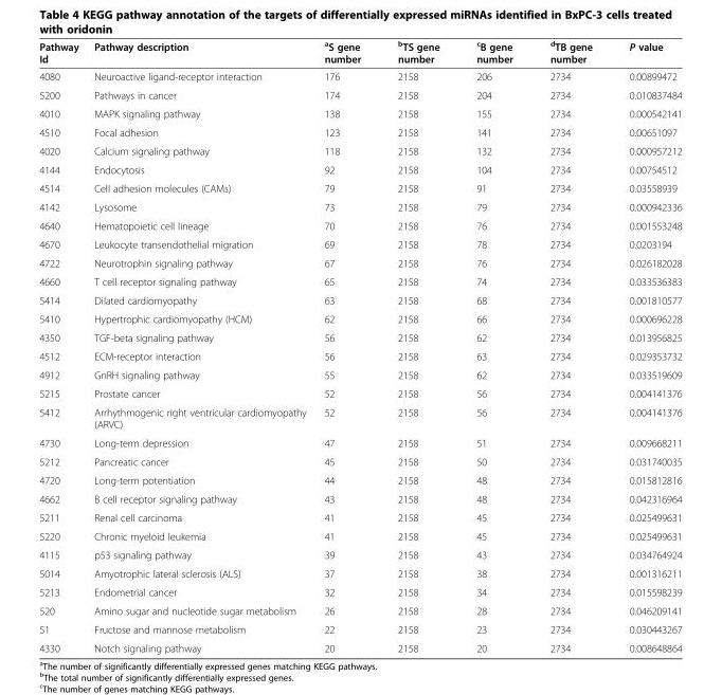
<table><thead><tr><td>Pathway Id</td><td>Pathway description</td><td><sup>a</sup>S gene number</td><td><sup>b</sup>TS gene number</td><td><sup>c</sup>B gene number</td><td><sup>d</sup>TB gene number</td><td>P value</td></tr></thead><tbody><tr><td>4080</td><td>Neuroactive ligand-receptor interaction</td><td>176</td><td>2158</td><td>206</td><td>2734</td><td>0.00899472</td></tr><tr><td>5200</td><td>Pathways in cancer</td><td>174</td><td>2158</td><td>204</td><td>2734</td><td>0.010837484</td></tr><tr><td>4010</td><td>MAPK signaling pathway</td><td>138</td><td>2158</td><td>155</td><td>2734</td><td>0.000542141</td></tr><tr><td>4510</td><td>Focal adhesion</td><td>123</td><td>2158</td><td>141</td><td>2734</td><td>0.00651097</td></tr><tr><td>4020</td><td>Calcium signaling pathway</td><td>118</td><td>2158</td><td>132</td><td>2734</td><td>0.000957212</td></tr><tr><td>4144</td><td>Endocytosis</td><td>92</td><td>2158</td><td>104</td><td>2734</td><td>0.00754512</td></tr><tr><td>4514</td><td>Cell adhesion molecules (CAMs)</td><td>79</td><td>2158</td><td>91</td><td>2734</td><td>0.03558939</td></tr><tr><td>4142</td><td>Lysosome</td><td>73</td><td>2158</td><td>79</td><td>2734</td><td>0.000942336</td></tr><tr><td>4640</td><td>Hematopoietic cell lineage</td><td>70</td><td>2158</td><td>76</td><td>2734</td><td>0.001553248</td></tr><tr><td>4670</td><td>Leukocyte transendothelial migration</td><td>69</td><td>2158</td><td>78</td><td>2734</td><td>0.0203194</td></tr><tr><td>4722</td><td>Neurotrophin signaling pathway</td><td>67</td><td>2158</td><td>76</td><td>2734</td><td>0.026182028</td></tr><tr><td>4660</td><td>T cell receptor signaling pathway</td><td>65</td><td>2158</td><td>74</td><td>2734</td><td>0.033536383</td></tr><tr><td>5414</td><td>Dilated cardiomyopathy</td><td>63</td><td>2158</td><td>68</td><td>2734</td><td>0.001810577</td></tr><tr><td>5410</td><td>Hypertrophic cardiomyopathy (HCM)</td><td>62</td><td>2158</td><td>66</td><td>2734</td><td>0.000696228</td></tr><tr><td>4350</td><td>TGF-beta signaling pathway</td><td>56</td><td>2158</td><td>62</td><td>2734</td><td>0.013956825</td></tr><tr><td>4512</td><td>ECM-receptor interaction</td><td>56</td><td>2158</td><td>63</td><td>2734</td><td>0.029353732</td></tr><tr><td>4912</td><td>GnRH signaling pathway</td><td>55</td><td>2158</td><td>62</td><td>2734</td><td>0.033519609</td></tr><tr><td>5215</td><td>Prostate cancer</td><td>52</td><td>2158</td><td>56</td><td>2734</td><td>0.004141376</td></tr><tr><td>5412</td><td>Arrhythmogenic right ventricular cardiomyopathy (ARVC)</td><td>52</td><td>2158</td><td>56</td><td>2734</td><td>0.004141376</td></tr><tr><td>4730</td><td>Long-term depression</td><td>47</td><td>2158</td><td>51</td><td>2734</td><td>0.009668211</td></tr><tr><td>5212</td><td>Pancreatic cancer</td><td>45</td><td>2158</td><td>50</td><td>2734</td><td>0.031740035</td></tr><tr><td>4720</td><td>Long-term potentiation</td><td>44</td><td>2158</td><td>48</td><td>2734</td><td>0.015812816</td></tr><tr><td>4662</td><td>B cell receptor signaling pathway</td><td>43</td><td>2158</td><td>48</td><td>2734</td><td>0.042316964</td></tr><tr><td>5211</td><td>Renal cell carcinoma</td><td>41</td><td>2158</td><td>45</td><td>2734</td><td>0.025499631</td></tr><tr><td>5220</td><td>Chronic myeloid leukemia</td><td>41</td><td>2158</td><td>45</td><td>2734</td><td>0.025499631</td></tr><tr><td>4115</td><td>p53 signaling pathway</td><td>39</td><td>2158</td><td>43</td><td>2734</td><td>0.034764924</td></tr><tr><td>5014</td><td>Amyotrophic lateral sclerosis (ALS)</td><td>37</td><td>2158</td><td>38</td><td>2734</td><td>0.001316211</td></tr><tr><td>5213</td><td>Endometrial cancer</td><td>32</td><td>2158</td><td>34</td><td>2734</td><td>0.015598239</td></tr><tr><td>520</td><td>Amino sugar and nucleotide sugar metabolism</td><td>26</td><td>2158</td><td>28</td><td>2734</td><td>0.046209141</td></tr><tr><td>51</td><td>Fructose and mannose metabolism</td><td>22</td><td>2158</td><td>23</td><td>2734</td><td>0.030443267</td></tr><tr><td>4330</td><td>Notch signaling pathway</td><td>20</td><td>2158</td><td>20</td><td>2734</td><td>0.008648864</td></tr></tbody></table>